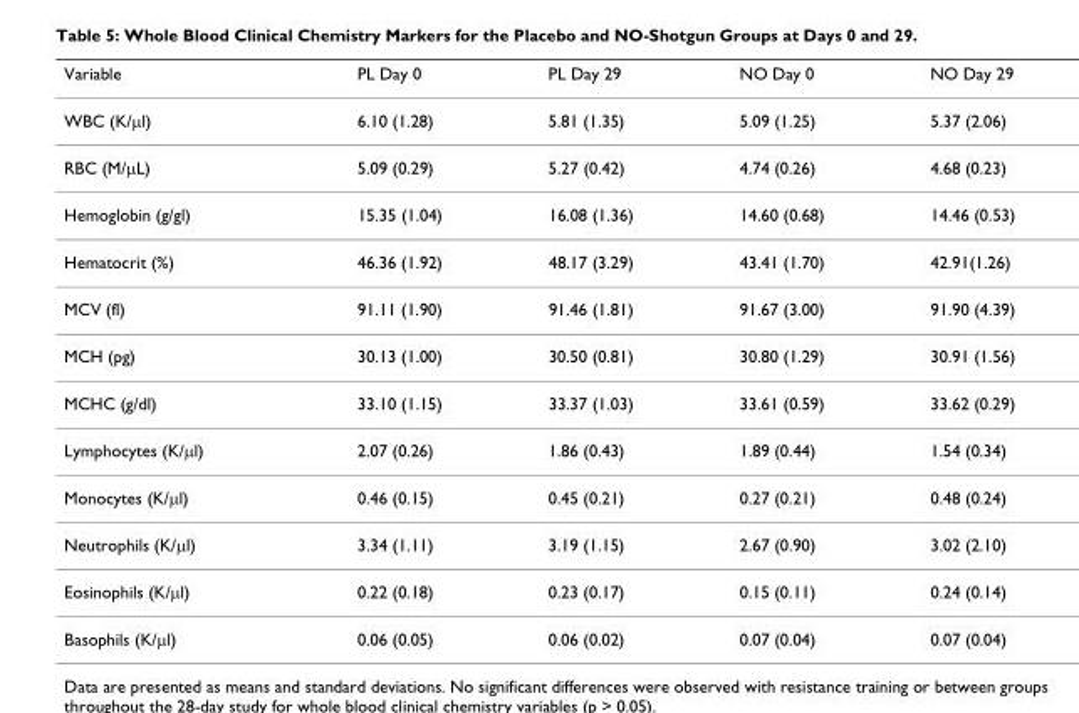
<table><thead><tr><td>Variable</td><td>PL Day 0</td><td>PL Day 29</td><td>NO Day 0</td><td>NO Day 29</td></tr></thead><tbody><tr><td>WBC (K/μl)</td><td>6.10 (1.28)</td><td>5.81 (1.35)</td><td>5.09 (1.25)</td><td>5.37 (2.06)</td></tr><tr><td>RBC (M/μL)</td><td>5.09 (0.29)</td><td>5.27 (0.42)</td><td>4.74 (0.26)</td><td>4.68 (0.23)</td></tr><tr><td>Hemoglobin (g/gl)</td><td>15.35 (1.04)</td><td>16.08 (1.36)</td><td>14.60 (0.68)</td><td>14.46 (0.53)</td></tr><tr><td>Hematocrit (%)</td><td>46.36 (1.92)</td><td>48.17 (3.29)</td><td>43.41 (1.70)</td><td>42.91(1.26)</td></tr><tr><td>MCV (fl)</td><td>91.11 (1.90)</td><td>91.46 (1.81)</td><td>91.67 (3.00)</td><td>91.90 (4.39)</td></tr><tr><td>MCH (pg)</td><td>30.13 (1.00)</td><td>30.50 (0.81)</td><td>30.80 (1.29)</td><td>30.91 (1.56)</td></tr><tr><td>MCHC (g/dl)</td><td>33.10 (1.15)</td><td>33.37 (1.03)</td><td>33.61 (0.59)</td><td>33.62 (0.29)</td></tr><tr><td>Lymphocytes (K/μl)</td><td>2.07 (0.26)</td><td>1.86 (0.43)</td><td>1.89 (0.44)</td><td>1.54 (0.34)</td></tr><tr><td>Monocytes (K/μl)</td><td>0.46 (0.15)</td><td>0.45 (0.21)</td><td>0.27 (0.21)</td><td>0.48 (0.24)</td></tr><tr><td>Neutrophils (K/μl)</td><td>3.34 (1.11)</td><td>3.19 (1.15)</td><td>2.67 (0.90)</td><td>3.02 (2.10)</td></tr><tr><td>Eosinophils (K/μl)</td><td>0.22 (0.18)</td><td>0.23 (0.17)</td><td>0.15 (0.11)</td><td>0.24 (0.14)</td></tr><tr><td>Basophils (K/μl)</td><td>0.06 (0.05)</td><td>0.06 (0.02)</td><td>0.07 (0.04)</td><td>0.07 (0.04)</td></tr></tbody></table>